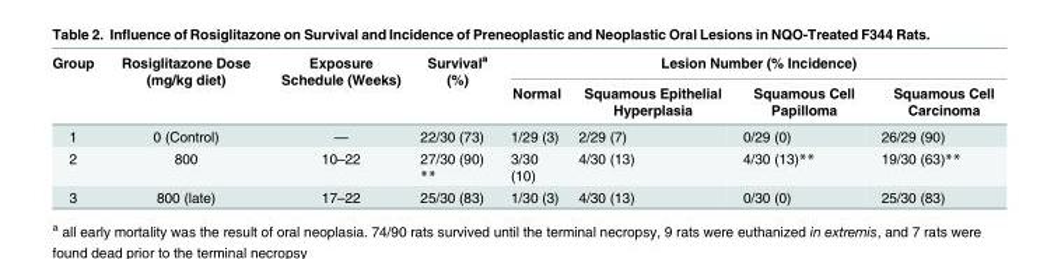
<table><thead><tr><td rowspan="2">Group</td><td rowspan="2">Rosiglitazone Dose (mg/kg diet)</td><td rowspan="2">Exposure Schedule (Weeks)</td><td rowspan="2">Survival<sup>a</sup> (%)</td><td colspan="4">Lesion Number (% Incidence)</td></tr><tr><td>Normal</td><td>Squamous Epithelial Hyperplasia</td><td>Squamous Cell Papilloma</td><td>Squamous Cell Carcinoma</td></tr></thead><tbody><tr><td>1</td><td>0 (Control)</td><td>—</td><td>22/30 (73)</td><td>1/29 (3)</td><td>2/29 (7)</td><td>0/29 (0)</td><td>26/29 (90)</td></tr><tr><td>2</td><td>800</td><td>10–22</td><td>27/30 (90) **</td><td>3/30 (10)</td><td>4/30 (13)</td><td>4/30 (13)**</td><td>19/30 (63)**</td></tr><tr><td>3</td><td>800 (late)</td><td>17–22</td><td>25/30 (83)</td><td>1/30 (3)</td><td>4/30 (13)</td><td>0/30 (0)</td><td>25/30 (83)</td></tr></tbody></table>